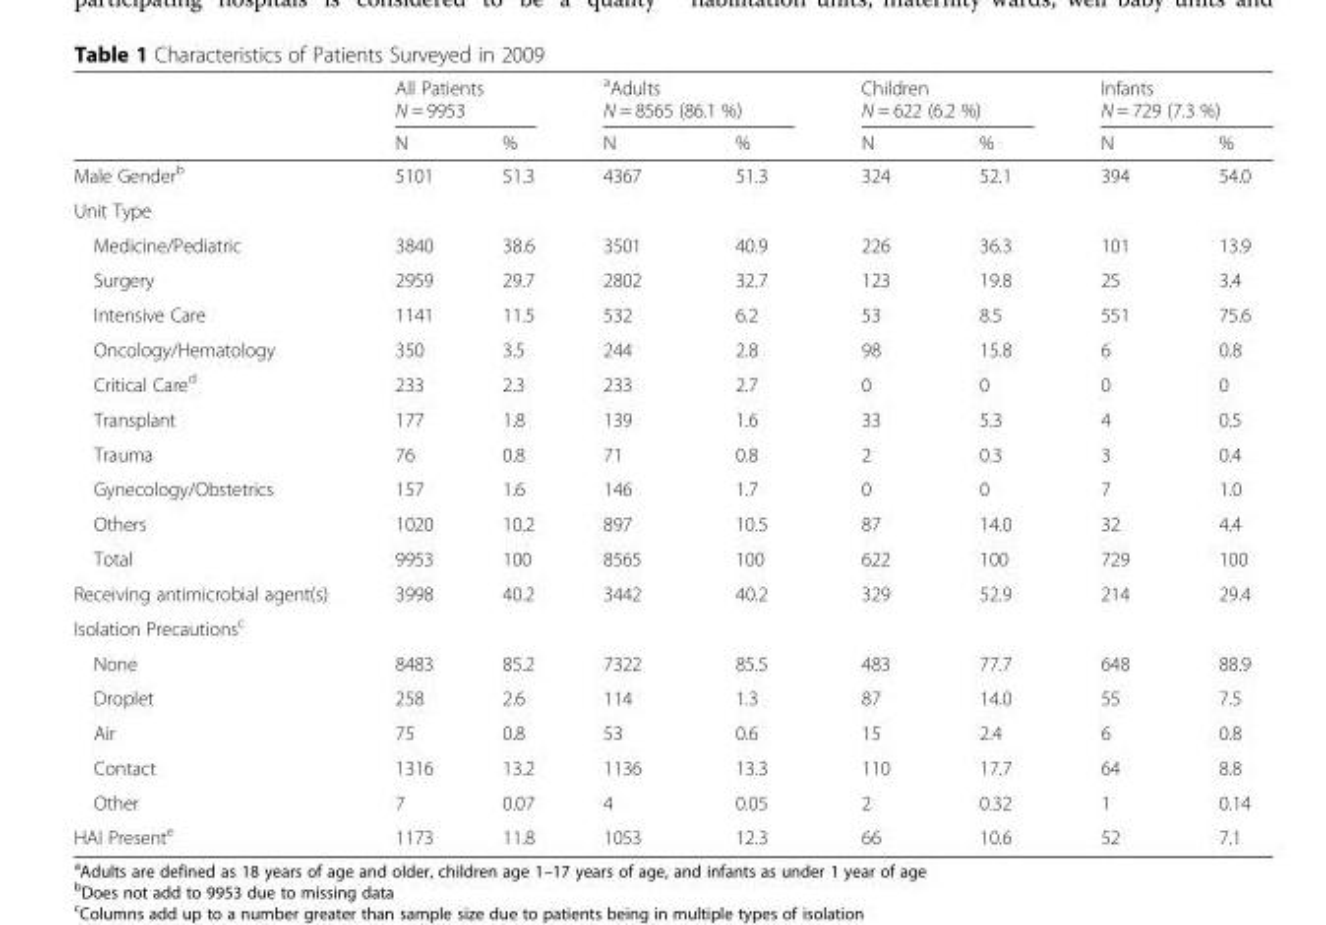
<table><thead><tr><td rowspan="2"></td><td colspan="2">All Patients N = 9953</td><td colspan="2"><sup>a</sup>Adults N = 8565 (86.1 %)</td><td colspan="2">Children N = 622 (6.2 %)</td><td colspan="2">Infants N = 729 (7.3 %)</td></tr><tr><td>N</td><td>%</td><td>N</td><td>%</td><td>N</td><td>%</td><td>N</td><td>%</td></tr></thead><tbody><tr><td>Male Gender<sup>b</sup></td><td>5101</td><td>51.3</td><td>4367</td><td>51.3</td><td>324</td><td>52.1</td><td>394</td><td>54.0</td></tr><tr><td colspan="9">Unit Type</td></tr><tr><td>Medicine/Pediatric</td><td>3840</td><td>38.6</td><td>3501</td><td>40.9</td><td>226</td><td>36.3</td><td>101</td><td>13.9</td></tr><tr><td>Surgery</td><td>2959</td><td>29.7</td><td>2802</td><td>32.7</td><td>123</td><td>19.8</td><td>25</td><td>3.4</td></tr><tr><td>Intensive Care</td><td>1141</td><td>11.5</td><td>532</td><td>6.2</td><td>53</td><td>8.5</td><td>551</td><td>75.6</td></tr><tr><td>Oncology/Hematology</td><td>350</td><td>3.5</td><td>244</td><td>2.8</td><td>98</td><td>15.8</td><td>6</td><td>0.8</td></tr><tr><td>Critical Care<sup>d</sup></td><td>233</td><td>2.3</td><td>233</td><td>2.7</td><td>0</td><td>0</td><td>0</td><td>0</td></tr><tr><td>Transplant</td><td>177</td><td>1.8</td><td>139</td><td>1.6</td><td>33</td><td>5.3</td><td>4</td><td>0.5</td></tr><tr><td>Trauma</td><td>76</td><td>0.8</td><td>71</td><td>0.8</td><td>2</td><td>0.3</td><td>3</td><td>0.4</td></tr><tr><td>Gynecology/Obstetrics</td><td>157</td><td>1.6</td><td>146</td><td>1.7</td><td>0</td><td>0</td><td>7</td><td>1.0</td></tr><tr><td>Others</td><td>1020</td><td>10.2</td><td>897</td><td>10.5</td><td>87</td><td>14.0</td><td>32</td><td>4.4</td></tr><tr><td>Total</td><td>9953</td><td>100</td><td>8565</td><td>100</td><td>622</td><td>100</td><td>729</td><td>100</td></tr><tr><td>Receiving antimicrobial agent(s)</td><td>3998</td><td>40.2</td><td>3442</td><td>40.2</td><td>329</td><td>52.9</td><td>214</td><td>29.4</td></tr><tr><td colspan="9">Isolation Precautions<sup>c</sup></td></tr><tr><td>None</td><td>8483</td><td>85.2</td><td>7322</td><td>85.5</td><td>483</td><td>77.7</td><td>648</td><td>88.9</td></tr><tr><td>Droplet</td><td>258</td><td>2.6</td><td>114</td><td>1.3</td><td>87</td><td>14.0</td><td>55</td><td>7.5</td></tr><tr><td>Air</td><td>75</td><td>0.8</td><td>53</td><td>0.6</td><td>15</td><td>2.4</td><td>6</td><td>0.8</td></tr><tr><td>Contact</td><td>1316</td><td>13.2</td><td>1136</td><td>13.3</td><td>110</td><td>17.7</td><td>64</td><td>8.8</td></tr><tr><td>Other</td><td>7</td><td>0.07</td><td>4</td><td>0.05</td><td>2</td><td>0.32</td><td>1</td><td>0.14</td></tr><tr><td>HAI Present<sup>e</sup></td><td>1173</td><td>11.8</td><td>1053</td><td>12.3</td><td>66</td><td>10.6</td><td>52</td><td>7.1</td></tr></tbody></table>